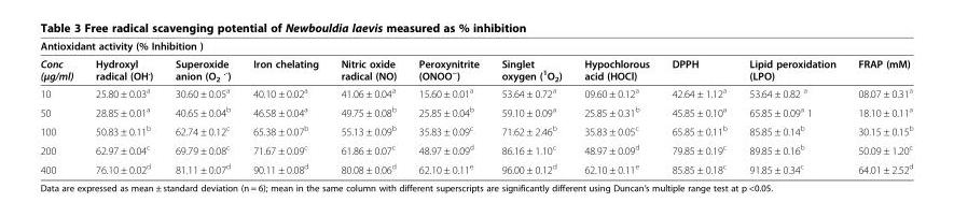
<table><thead><tr><td colspan="11">Antioxidant activity (% Inhibition )</td></tr><tr><td>Conc (μg/ml)</td><td>Hydroxyl radical (OH<sup>.</sup>)</td><td>Superoxide anion (O<sub>2</sub> <sup>.-</sup>)</td><td>Iron chelating</td><td>Nitric oxide radical (NO)</td><td>Peroxynitrite (ONOO<sup>−</sup>)</td><td>Singlet oxygen (<sup>1</sup>O<sub>2</sub>)</td><td>Hypochlorous acid (HOCl)</td><td>DPPH</td><td>Lipid peroxidation (LPO)</td><td>FRAP (mM)</td></tr></thead><tbody><tr><td>10</td><td>25.80 ± 0.03<sup>a</sup></td><td>30.60 ± 0.05<sup>a</sup></td><td>40.10 ± 0.02<sup>a</sup></td><td>41.06 ± 0.04<sup>a</sup></td><td>15.60 ± 0.01<sup>a</sup></td><td>53.64 ± 0.72<sup>a</sup></td><td>09.60 ± 0.12<sup>a</sup></td><td>42.64 ± 1.12<sup>a</sup></td><td>53.64 ± 0.82 <sup>a</sup></td><td>08.07 ± 0.31<sup>a</sup></td></tr><tr><td>50</td><td>28.85 ± 0.01<sup>a</sup></td><td>40.65 ± 0.04<sup>b</sup></td><td>46.58 ± 0.04<sup>a</sup></td><td>49.75 ± 0.08<sup>b</sup></td><td>25.85 ± 0.04<sup>b</sup></td><td>59.10 ± 0.09<sup>a</sup></td><td>25.85 ± 0.31<sup>b</sup></td><td>45.85 ± 0.10<sup>a</sup></td><td>65.85 ± 0.09<sup>a</sup> 1</td><td>18.10 ± 0.11<sup>a</sup></td></tr><tr><td>100</td><td>50.83 ± 0.11<sup>b</sup></td><td>62.74 ± 0.12<sup>c</sup></td><td>65.38 ± 0.07<sup>b</sup></td><td>55.13 ± 0.09<sup>b</sup></td><td>35.83 ± 0.09<sup>c</sup></td><td>71.62 ± 2.46<sup>b</sup></td><td>35.83 ± 0.05<sup>c</sup></td><td>65.85 ± 0.11<sup>b</sup></td><td>85.85 ± 0.14<sup>b</sup></td><td>30.15 ± 0.15<sup>b</sup></td></tr><tr><td>200</td><td>62.97 ± 0.04<sup>c</sup></td><td>69.79 ± 0.08<sup>c</sup></td><td>71.67 ± 0.09<sup>c</sup></td><td>61.86 ± 0.07<sup>c</sup></td><td>48.97 ± 0.09<sup>d</sup></td><td>86.16 ± 1.10<sup>c</sup></td><td>48.97 ± 0.09<sup>d</sup></td><td>79.85 ± 0.19<sup>c</sup></td><td>89.85 ± 0.16<sup>b</sup></td><td>50.09 ± 1.20<sup>c</sup></td></tr><tr><td>400</td><td>76.10 ± 0.02<sup>d</sup></td><td>81.11 ± 0.07<sup>d</sup></td><td>90.11 ± 0.08<sup>d</sup></td><td>80.08 ± 0.06<sup>d</sup></td><td>62.10 ± 0.11<sup>e</sup></td><td>96.00 ± 0.12<sup>d</sup></td><td>62.10 ± 0.11<sup>e</sup></td><td>85.85 ± 0.18<sup>c</sup></td><td>91.85 ± 0.34<sup>c</sup></td><td>64.01 ± 2.52<sup>d</sup></td></tr></tbody></table>